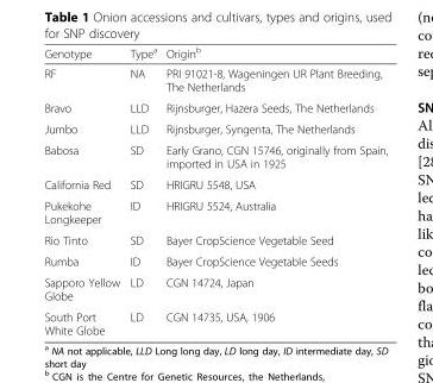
<table><thead><tr><td>Genotype</td><td>Type<sup>a</sup></td><td>Origin<sup>b</sup></td></tr></thead><tbody><tr><td>RF</td><td>NA</td><td>PRI 91021-8, Wageningen UR Plant Breeding, The Netherlands</td></tr><tr><td>Bravo</td><td>LLD</td><td>Rijnsburger, Hazera Seeds, The Netherlands</td></tr><tr><td>Jumbo</td><td>LLD</td><td>Rijnsburger, Syngenta, The Netherlands</td></tr><tr><td>Babosa</td><td>SD</td><td>Early Grano, CGN 15746, originally from Spain, imported in USA in 1925</td></tr><tr><td>California Red</td><td>SD</td><td>HRIGRU 5548, USA</td></tr><tr><td>Pukekohe Longkeeper</td><td>ID</td><td>HRIGRU 5524, Australia</td></tr><tr><td>Rio Tinto</td><td>SD</td><td>Bayer CropScience Vegetable Seed</td></tr><tr><td>Rumba</td><td>ID</td><td>Bayer CropScience Vegetable Seeds</td></tr><tr><td>Sapporo Yellow Globe</td><td>LD</td><td>CGN 14724, Japan</td></tr><tr><td>South Port White Globe</td><td>LD</td><td>CGN 14735, USA, 1906</td></tr></tbody></table>